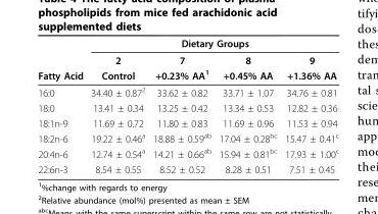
<table><thead><tr><td rowspan="3">Fatty Acid</td><td colspan="4">Dietary Groups</td></tr><tr><td rowspan="2">2 Control</td><td rowspan="2">7 +0.23% AA<sup>1</sup></td><td rowspan="2">8 +0.45% AA</td><td rowspan="2">9 +1.36% AA</td></tr><tr></tr></thead><tbody><tr><td>16:0</td><td>34.40 ± 0.87<sup>2</sup></td><td>33.62 ± 0.82</td><td>33.71 ± 1.07</td><td>34.76 ± 0.81</td></tr><tr><td>18:0</td><td>13.41 ± 0.34</td><td>13.25 ± 0.42</td><td>13.34 ± 0.53</td><td>12.82 ± 0.36</td></tr><tr><td>18:1n-9</td><td>11.69 ± 0.72</td><td>11.80 ± 0.83</td><td>11.69 ± 0.96</td><td>11.53 ± 0.94</td></tr><tr><td>18:2n-6</td><td>19.22 ± 0.46<sup>a</sup></td><td>18.88 ± 0.59<sup>ab</sup></td><td>17.04 ± 0.28<sup>bc</sup></td><td>15.47 ± 0.41<sup>c</sup></td></tr><tr><td>20:4n-6</td><td>12.74 ± 0.54<sup>a</sup></td><td>14.21 ± 0.66<sup>ab</sup></td><td>15.94 ± 0.81<sup>bc</sup></td><td>17.93 ± 1.00<sup>c</sup></td></tr><tr><td>22:6n-3</td><td>8.54 ± 0.55</td><td>8.52 ± 0.52</td><td>8.28 ± 0.51</td><td>7.51 ± 0.45</td></tr></tbody></table>